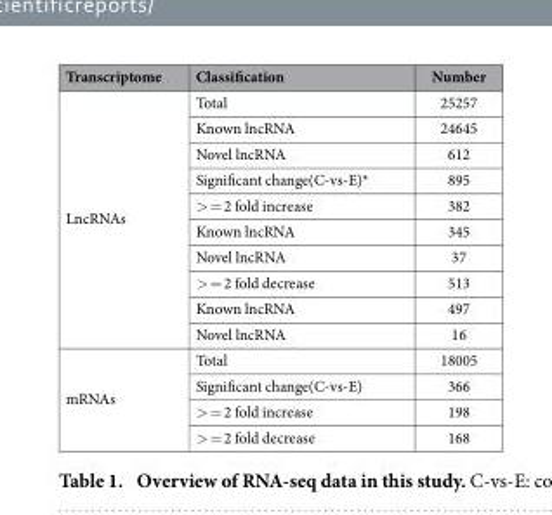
<table><thead><tr><td>Transcriptome</td><td>Classification</td><td>Number</td></tr></thead><tbody><tr><td rowspan="10">LncRNAs</td><td>Total</td><td>25257</td></tr><tr><td>Known lncRNA</td><td>24645</td></tr><tr><td>Novel lncRNA</td><td>612</td></tr><tr><td>Significant change(C-vs-E)*</td><td>895</td></tr><tr><td>&gt; = 2 fold increase</td><td>382</td></tr><tr><td>Known lncRNA</td><td>345</td></tr><tr><td>Novel lncRNA</td><td>37</td></tr><tr><td>&gt; = 2 fold decrease</td><td>513</td></tr><tr><td>Known lncRNA</td><td>497</td></tr><tr><td>Novel lncRNA</td><td>16</td></tr><tr><td rowspan="4">mRNAs</td><td>Total</td><td>18005</td></tr><tr><td>Significant change(C-vs-E)</td><td>366</td></tr><tr><td>&gt; = 2 fold increase</td><td>198</td></tr><tr><td>&gt; = 2 fold decrease</td><td>168</td></tr></tbody></table>